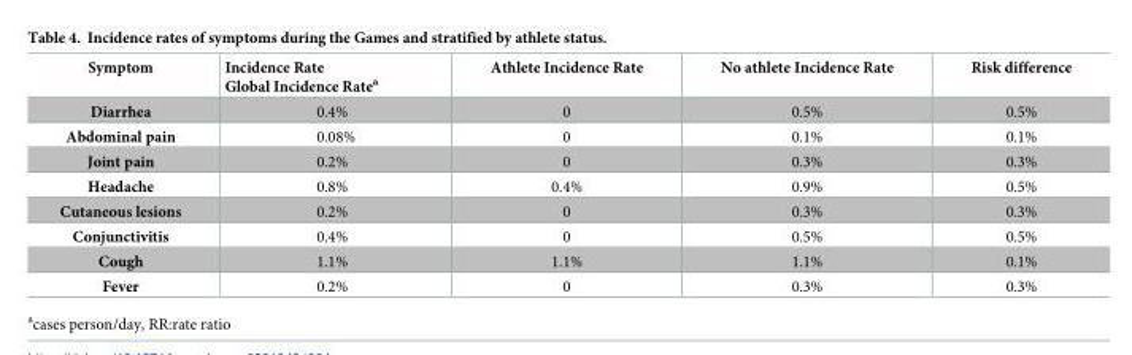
<table><thead><tr><td>Symptom</td><td>Incidence Rate Global Incidence Rate<sup>a</sup></td><td>Athlete Incidence Rate</td><td>No athlete Incidence Rate</td><td>Risk difference</td></tr></thead><tbody><tr><td>Diarrhea</td><td>0.4%</td><td>0</td><td>0.5%</td><td>0.5%</td></tr><tr><td>Abdominal pain</td><td>0.08%</td><td>0</td><td>0.1%</td><td>0.1%</td></tr><tr><td>Joint pain</td><td>0.2%</td><td>0</td><td>0.3%</td><td>0.3%</td></tr><tr><td>Headache</td><td>0.8%</td><td>0.4%</td><td>0.9%</td><td>0.5%</td></tr><tr><td>Cutaneous lesions</td><td>0.2%</td><td>0</td><td>0.3%</td><td>0.3%</td></tr><tr><td>Conjunctivitis</td><td>0.4%</td><td>0</td><td>0.5%</td><td>0.5%</td></tr><tr><td>Cough</td><td>1.1%</td><td>1.1%</td><td>1.1%</td><td>0.1%</td></tr><tr><td>Fever</td><td>0.2%</td><td>0</td><td>0.3%</td><td>0.3%</td></tr></tbody></table>